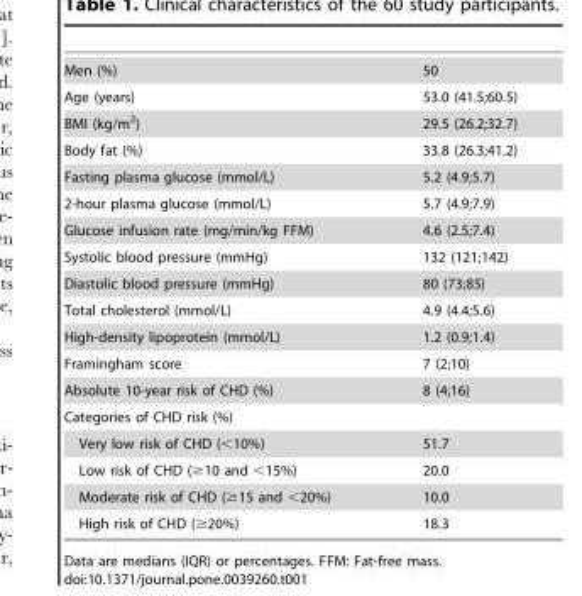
<table><tbody><tr><td>Men (%)</td><td>50</td></tr><tr><td>Age (years)</td><td>53.0 (41.5;60.5)</td></tr><tr><td>BMI (kg/m<sup>2</sup>)</td><td>29.5 (26.2;32.7)</td></tr><tr><td>Body fat (%)</td><td>33.8 (26.3;41.2)</td></tr><tr><td>Fasting plasma glucose (mmol/L)</td><td>5.2 (4.9;5.7)</td></tr><tr><td>2-hour plasma glucose (mmol/L)</td><td>5.7 (4.9;7.9)</td></tr><tr><td>Glucose infusion rate (mg/min/kg FFM)</td><td>4.6 (2.5;7.4)</td></tr><tr><td>Systolic blood pressure (mmHg)</td><td>132 (121;142)</td></tr><tr><td>Diastolic blood pressure (mmHg)</td><td>80 (73;85)</td></tr><tr><td>Total cholesterol (mmol/L)</td><td>4.9 (4.4;5.6)</td></tr><tr><td>High-density lipoprotein (mmol/L)</td><td>1.2 (0.9;1.4)</td></tr><tr><td>Framingham score</td><td>7 (2;10)</td></tr><tr><td>Absolute 10-year risk of CHD (%)</td><td>8 (4;16)</td></tr><tr><td colspan="2">Categories of CHD risk (%)</td></tr><tr><td>Very low risk of CHD (&lt;10%)</td><td>51.7</td></tr><tr><td>Low risk of CHD (≥10 and &lt;15%)</td><td>20.0</td></tr><tr><td>Moderate risk of CHD (≥15 and &lt;20%)</td><td>10.0</td></tr><tr><td>High risk of CHD (≥20%)</td><td>18.3</td></tr></tbody></table>